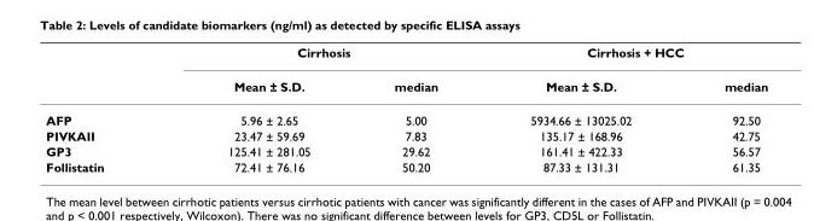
<table><thead><tr><td rowspan="2"></td><td colspan="2">Cirrhosis</td><td colspan="2">Cirrhosis + HCC</td></tr><tr><td>Mean ± S.D.</td><td>median</td><td>Mean ± S.D.</td><td>median</td></tr></thead><tbody><tr><td>AFP</td><td>5.96 ± 2.65</td><td>5.00</td><td>5934.66 ± 13025.02</td><td>92.50</td></tr><tr><td>PIVKAII</td><td>23.47 ± 59.69</td><td>7.83</td><td>135.17 ± 168.96</td><td>42.75</td></tr><tr><td>GP3</td><td>125.41 ± 281.05</td><td>29.62</td><td>161.41 ± 422.33</td><td>56.57</td></tr><tr><td>Follistatin</td><td>72.41 ± 76.16</td><td>50.20</td><td>87.33 ± 131.31</td><td>61.35</td></tr></tbody></table>